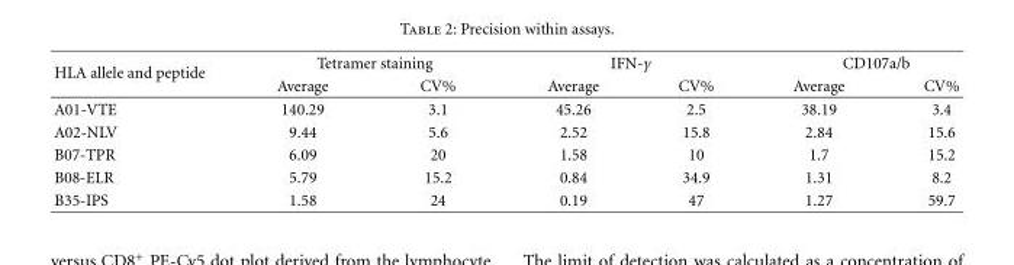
<table><thead><tr><td rowspan="2">HLA allele and peptide</td><td colspan="2">Tetramer staining</td><td colspan="2">IFN-γ</td><td colspan="2">CD107a/b</td></tr><tr><td>Average</td><td>CV%</td><td>Average</td><td>CV%</td><td>Average</td><td>CV%</td></tr></thead><tbody><tr><td>A01-VTE</td><td>140.29</td><td>3.1</td><td>45.26</td><td>2.5</td><td>38.19</td><td>3.4</td></tr><tr><td>A02-NLV</td><td>9.44</td><td>5.6</td><td>2.52</td><td>15.8</td><td>2.84</td><td>15.6</td></tr><tr><td>B07-TPR</td><td>6.09</td><td>20</td><td>1.58</td><td>10</td><td>1.7</td><td>15.2</td></tr><tr><td>B08-ELR</td><td>5.79</td><td>15.2</td><td>0.84</td><td>34.9</td><td>1.31</td><td>8.2</td></tr><tr><td>B35-IPS</td><td>1.58</td><td>24</td><td>0.19</td><td>47</td><td>1.27</td><td>59.7</td></tr></tbody></table>